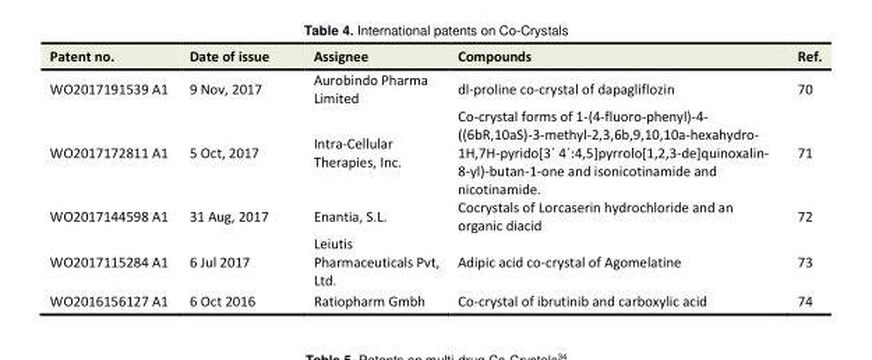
<table><tbody><tr><td>Patent no.</td><td>Date of issue</td><td>Assignee</td><td>Compounds</td><td>Ref.</td></tr><tr><td>WO2017191539 A1</td><td>9 Nov, 2017</td><td>Aurobindo Pharma Limited</td><td>dl-proline co-crystal of dapagliflozin</td><td>70</td></tr><tr><td>WO2017172811 A1</td><td>5 Oct, 2017</td><td>Intra-Cellular Therapies, Inc.</td><td>Co-crystal forms of 1-(4-fluoro-phenyl)-4- ((6bR,10aS)-3-methyl-2,3,6b,9,10,10a-hexahydro- 1H,7H-pyrido[3´ 4´:4,5]pyrrolo[1,2,3-de]quinoxalin- 8-yl)-butan-1-one and isonicotinamide and nicotinamide.</td><td>71</td></tr><tr><td>WO2017144598 A1</td><td>31 Aug, 2017</td><td>Enantia, S.L.</td><td>Cocrystals of Lorcaserin hydrochloride and an organic diacid</td><td>72</td></tr><tr><td>WO2017115284 A1</td><td>6 Jul 2017</td><td>Leiutis Pharmaceuticals Pvt, Ltd.</td><td>Adipic acid co-crystal of Agomelatine</td><td>73</td></tr><tr><td>WO2016156127 A1</td><td>6 Oct 2016</td><td>Ratiopharm Gmbh</td><td>Co-crystal of ibrutinib and carboxylic acid</td><td>74</td></tr></tbody></table>